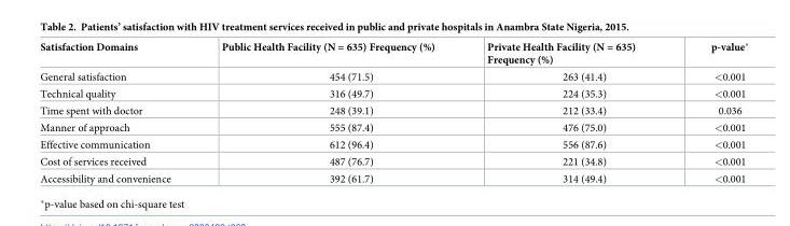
<table><thead><tr><td>Satisfaction Domains</td><td>Public Health Facility (N = 635) Frequency (%)</td><td>Private Health Facility (N = 635) Frequency (%)</td><td>p-value*</td></tr></thead><tbody><tr><td>General satisfaction</td><td>454 (71.5)</td><td>263 (41.4)</td><td>&lt;0.001</td></tr><tr><td>Technical quality</td><td>316 (49.7)</td><td>224 (35.3)</td><td>&lt;0.001</td></tr><tr><td>Time spent with doctor</td><td>248 (39.1)</td><td>212 (33.4)</td><td>0.036</td></tr><tr><td>Manner of approach</td><td>555 (87.4)</td><td>476 (75.0)</td><td>&lt;0.001</td></tr><tr><td>Effective communication</td><td>612 (96.4)</td><td>556 (87.6)</td><td>&lt;0.001</td></tr><tr><td>Cost of services received</td><td>487 (76.7)</td><td>221 (34.8)</td><td>&lt;0.001</td></tr><tr><td>Accessibility and convenience</td><td>392 (61.7)</td><td>314 (49.4)</td><td>&lt;0.001</td></tr></tbody></table>